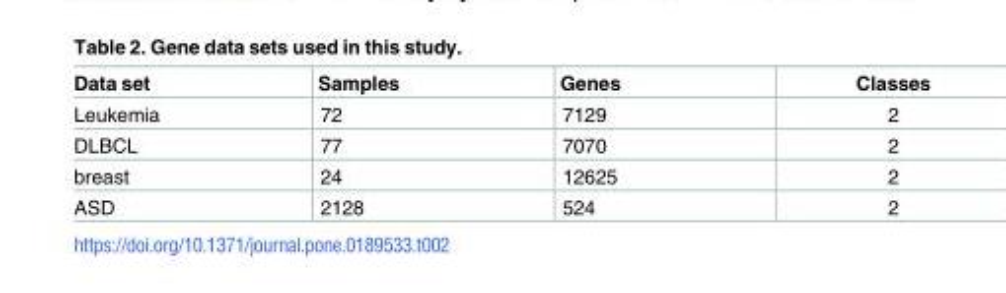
<table><thead><tr><td>Data set</td><td>Samples</td><td>Genes</td><td>Classes</td></tr></thead><tbody><tr><td>Leukemia</td><td>72</td><td>7129</td><td>2</td></tr><tr><td>DLBCL</td><td>77</td><td>7070</td><td>2</td></tr><tr><td>breast</td><td>24</td><td>12625</td><td>2</td></tr><tr><td>ASD</td><td>2128</td><td>524</td><td>2</td></tr></tbody></table>